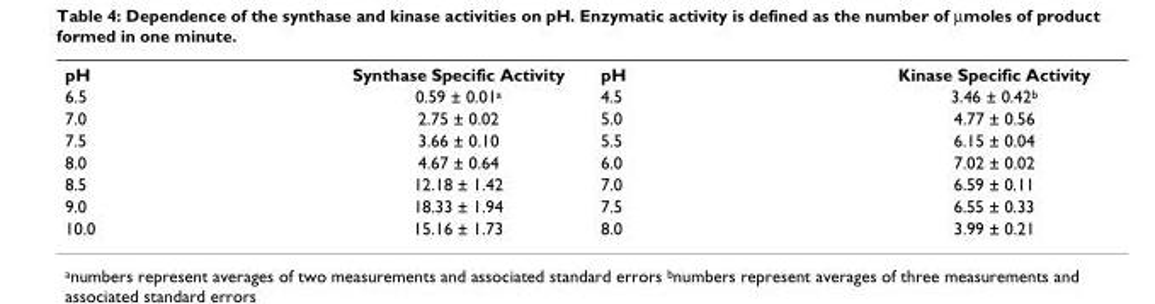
<table><tbody><tr><td>pH</td><td>Synthase Specific Activity</td><td>pH</td><td>Kinase Specific Activity</td></tr><tr><td>6.5</td><td>0.59 ± 0.01<sup>a</sup></td><td>4.5</td><td>3.46 ± 0.42<sup>b</sup></td></tr><tr><td>7.0</td><td>2.75 ± 0.02</td><td>5.0</td><td>4.77 ± 0.56</td></tr><tr><td>7.5</td><td>3.66 ± 0.10</td><td>5.5</td><td>6.15 ± 0.04</td></tr><tr><td>8.0</td><td>4.67 ± 0.64</td><td>6.0</td><td>7.02 ± 0.02</td></tr><tr><td>8.5</td><td>12.18 ± 1.42</td><td>7.0</td><td>6.59 ± 0.11</td></tr><tr><td>9.0</td><td>18.33 ± 1.94</td><td>7.5</td><td>6.55 ± 0.33</td></tr><tr><td>10.0</td><td>15.16 ± 1.73</td><td>8.0</td><td>3.99 ± 0.21</td></tr></tbody></table>